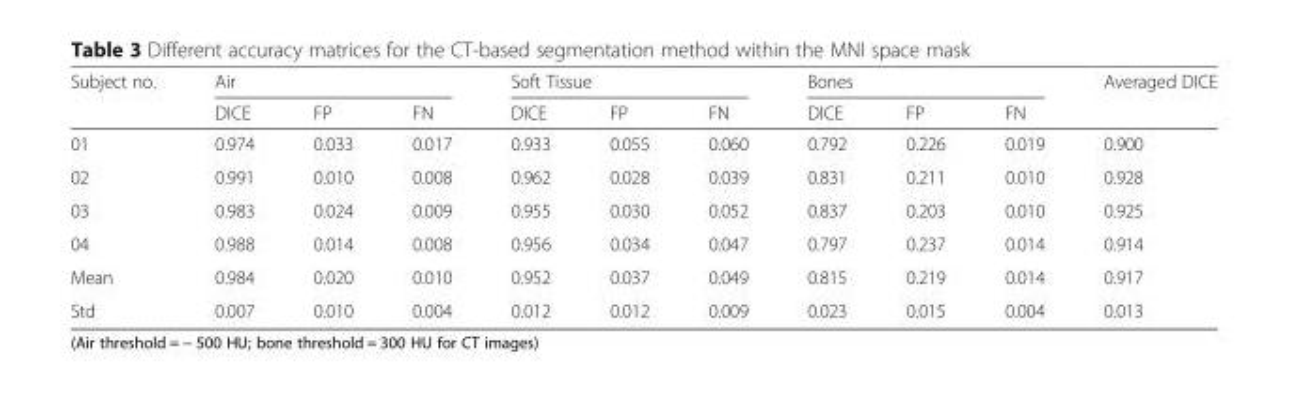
<table><thead><tr><td rowspan="2">Subject no.</td><td colspan="3">Air</td><td colspan="3">Soft Tissue</td><td colspan="3">Bones</td><td rowspan="2">Averaged DICE</td></tr><tr><td>DICE</td><td>FP</td><td>FN</td><td>DICE</td><td>FP</td><td>FN</td><td>DICE</td><td>FP</td><td>FN</td></tr></thead><tbody><tr><td>01</td><td>0.974</td><td>0.033</td><td>0.017</td><td>0.933</td><td>0.055</td><td>0.060</td><td>0.792</td><td>0.226</td><td>0.019</td><td>0.900</td></tr><tr><td>02</td><td>0.991</td><td>0.010</td><td>0.008</td><td>0.962</td><td>0.028</td><td>0.039</td><td>0.831</td><td>0.211</td><td>0.010</td><td>0.928</td></tr><tr><td>03</td><td>0.983</td><td>0.024</td><td>0.009</td><td>0.955</td><td>0.030</td><td>0.052</td><td>0.837</td><td>0.203</td><td>0.010</td><td>0.925</td></tr><tr><td>04</td><td>0.988</td><td>0.014</td><td>0.008</td><td>0.956</td><td>0.034</td><td>0.047</td><td>0.797</td><td>0.237</td><td>0.014</td><td>0.914</td></tr><tr><td>Mean</td><td>0.984</td><td>0.020</td><td>0.010</td><td>0.952</td><td>0.037</td><td>0.049</td><td>0.815</td><td>0.219</td><td>0.014</td><td>0.917</td></tr><tr><td>Std</td><td>0.007</td><td>0.010</td><td>0.004</td><td>0.012</td><td>0.012</td><td>0.009</td><td>0.023</td><td>0.015</td><td>0.004</td><td>0.013</td></tr></tbody></table>